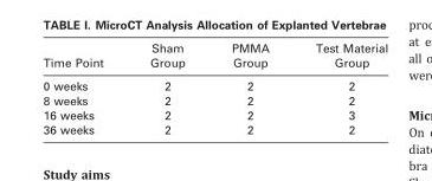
<table><thead><tr><td>Time Point</td><td>Sham Group</td><td>PMMA Group</td><td>Test Material Group</td></tr></thead><tbody><tr><td>0 weeks</td><td>2</td><td>2</td><td>2</td></tr><tr><td>8 weeks</td><td>2</td><td>2</td><td>2</td></tr><tr><td>16 weeks</td><td>2</td><td>2</td><td>3</td></tr><tr><td>36 weeks</td><td>2</td><td>2</td><td>2</td></tr></tbody></table>